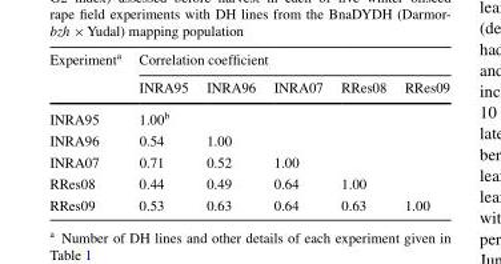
<table><thead><tr><td rowspan="2">Experiment<sup>a</sup></td><td colspan="5">Correlation coefficient</td></tr><tr><td>INRA95</td><td>INRA96</td><td>INRA07</td><td>RRes08</td><td>RRes09</td></tr></thead><tbody><tr><td>INRA95</td><td>1.00<sup>b</sup></td><td></td><td></td><td></td><td></td></tr><tr><td>INRA96</td><td>0.54</td><td>1.00</td><td></td><td></td><td></td></tr><tr><td>INRA07</td><td>0.71</td><td>0.52</td><td>1.00</td><td></td><td></td></tr><tr><td>RRes08</td><td>0.44</td><td>0.49</td><td>0.64</td><td>1.00</td><td></td></tr><tr><td>RRes09</td><td>0.53</td><td>0.63</td><td>0.64</td><td>0.63</td><td>1.00</td></tr></tbody></table>